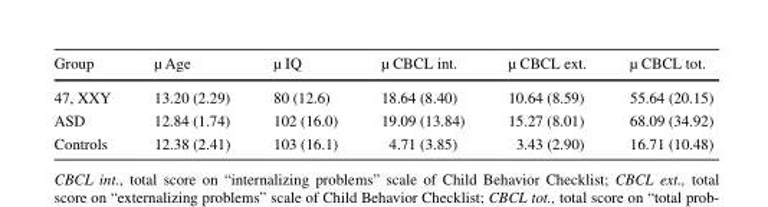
<table><thead><tr><td>Group</td><td>µ Age</td><td>µ IQ</td><td>µ CBCL int.</td><td>µ CBCL ext.</td><td>µ CBCL tot.</td></tr></thead><tbody><tr><td>47, XXY</td><td>13.20 (2.29)</td><td>80 (12.6)</td><td>18.64 (8.40)</td><td>10.64 (8.59)</td><td>55.64 (20.15)</td></tr><tr><td>ASD</td><td>12.84 (1.74)</td><td>102 (16.0)</td><td>19.09 (13.84)</td><td>15.27 (8.01)</td><td>68.09 (34.92)</td></tr><tr><td>Controls</td><td>12.38 (2.41)</td><td>103 (16.1)</td><td>4.71 (3.85)</td><td>3.43 (2.90)</td><td>16.71 (10.48)</td></tr></tbody></table>